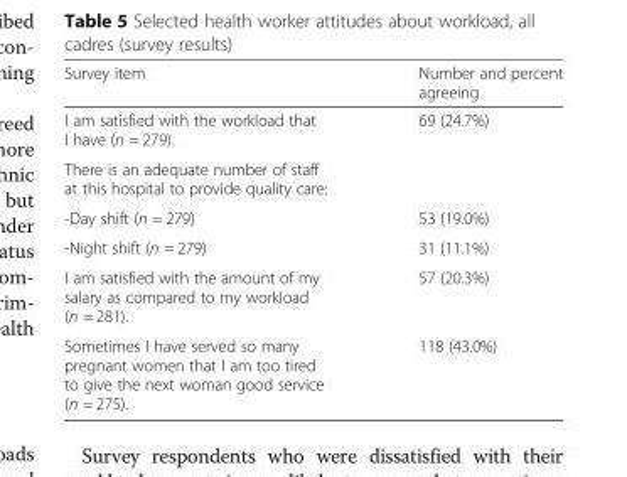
<table><thead><tr><td>Survey item</td><td>Number and percent agreeing</td></tr></thead><tbody><tr><td>I am satisfied with the workload that I have (n = 279).</td><td>69 (24.7%)</td></tr><tr><td colspan="2">There is an adequate number of staff at this hospital to provide quality care:</td></tr><tr><td>-Day shift (n = 279)</td><td>53 (19.0%)</td></tr><tr><td>-Night shift (n = 279)</td><td>31 (11.1%)</td></tr><tr><td>I am satisfied with the amount of my salary as compared to my workload (n = 281).</td><td>57 (20.3%)</td></tr><tr><td>Sometimes I have served so many pregnant women that I am too tired to give the next woman good service (n = 275).</td><td>118 (43.0%)</td></tr></tbody></table>